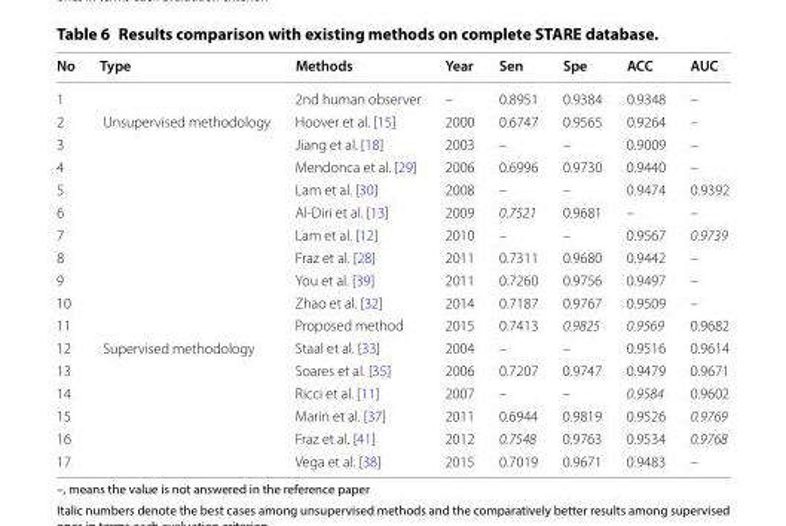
<table><thead><tr><td>No</td><td>Type</td><td>Methods</td><td>Year</td><td>Sen</td><td>Spe</td><td>ACC</td><td>AUC</td></tr></thead><tbody><tr><td>1</td><td></td><td>2nd human observer</td><td>–</td><td>0.8951</td><td>0.9384</td><td>0.9348</td><td>–</td></tr><tr><td>2</td><td rowspan="10">Unsupervised methodology</td><td>Hoover et al. [15]</td><td>2000</td><td>0.6747</td><td>0.9565</td><td>0.9264</td><td>–</td></tr><tr><td>3</td><td>Jiang et al. [18]</td><td>2003</td><td>–</td><td>–</td><td>0.9009</td><td>–</td></tr><tr><td>4</td><td>Mendonca et al. [29]</td><td>2006</td><td>0.6996</td><td>0.9730</td><td>0.9440</td><td>–</td></tr><tr><td>5</td><td>Lam et al. [30]</td><td>2008</td><td>–</td><td>–</td><td>0.9474</td><td>0.9392</td></tr><tr><td>6</td><td>Al-Diri et al. [13]</td><td>2009</td><td>0.7521</td><td>0.9681</td><td>–</td><td>–</td></tr><tr><td>7</td><td>Lam et al. [12]</td><td>2010</td><td>–</td><td>–</td><td>0.9567</td><td>0.9739</td></tr><tr><td>8</td><td>Fraz et al. [28]</td><td>2011</td><td>0.7311</td><td>0.9680</td><td>0.9442</td><td>–</td></tr><tr><td>9</td><td>You et al. [39]</td><td>2011</td><td>0.7260</td><td>0.9756</td><td>0.9497</td><td>–</td></tr><tr><td>10</td><td>Zhao et al. [32]</td><td>2014</td><td>0.7187</td><td>0.9767</td><td>0.9509</td><td>–</td></tr><tr><td>11</td><td>Proposed method</td><td>2015</td><td>0.7413</td><td>0.9825</td><td>0.9569</td><td>0.9682</td></tr><tr><td>12</td><td rowspan="6">Supervised methodology</td><td>Staal et al. [33]</td><td>2004</td><td>–</td><td>–</td><td>0.9516</td><td>0.9614</td></tr><tr><td>13</td><td>Soares et al. [35]</td><td>2006</td><td>0.7207</td><td>0.9747</td><td>0.9479</td><td>0.9671</td></tr><tr><td>14</td><td>Ricci et al. [11]</td><td>2007</td><td>–</td><td>–</td><td>0.9584</td><td>0.9602</td></tr><tr><td>15</td><td>Marin et al. [37]</td><td>2011</td><td>0.6944</td><td>0.9819</td><td>0.9526</td><td>0.9769</td></tr><tr><td>16</td><td>Fraz et al. [41]</td><td>2012</td><td>0.7548</td><td>0.9763</td><td>0.9534</td><td>0.9768</td></tr><tr><td>17</td><td>Vega et al. [38]</td><td>2015</td><td>0.7019</td><td>0.9671</td><td>0.9483</td><td>–</td></tr></tbody></table>